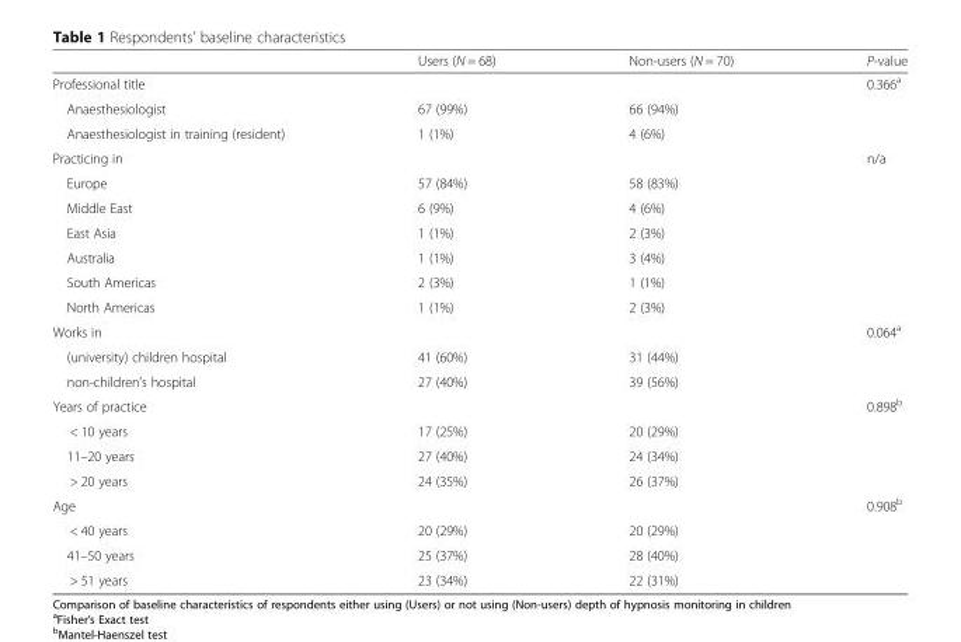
<table><thead><tr><td></td><td>Users (N = 68)</td><td>Non-users (N = 70)</td><td>P-value</td></tr></thead><tbody><tr><td>Professional title</td><td></td><td></td><td>0.366<sup>a</sup></td></tr><tr><td>Anaesthesiologist</td><td>67 (99%)</td><td>66 (94%)</td><td></td></tr><tr><td>Anaesthesiologist in training (resident)</td><td>1 (1%)</td><td>4 (6%)</td><td></td></tr><tr><td>Practicing in</td><td></td><td></td><td>n/a</td></tr><tr><td>Europe</td><td>57 (84%)</td><td>58 (83%)</td><td></td></tr><tr><td>Middle East</td><td>6 (9%)</td><td>4 (6%)</td><td></td></tr><tr><td>East Asia</td><td>1 (1%)</td><td>2 (3%)</td><td></td></tr><tr><td>Australia</td><td>1 (1%)</td><td>3 (4%)</td><td></td></tr><tr><td>South Americas</td><td>2 (3%)</td><td>1 (1%)</td><td></td></tr><tr><td>North Americas</td><td>1 (1%)</td><td>2 (3%)</td><td></td></tr><tr><td>Works in</td><td></td><td></td><td>0.064<sup>a</sup></td></tr><tr><td>(university) children hospital</td><td>41 (60%)</td><td>31 (44%)</td><td></td></tr><tr><td>non-children’s hospital</td><td>27 (40%)</td><td>39 (56%)</td><td></td></tr><tr><td>Years of practice</td><td></td><td></td><td>0.898<sup>b</sup></td></tr><tr><td>&lt; 10 years</td><td>17 (25%)</td><td>20 (29%)</td><td></td></tr><tr><td>11–20 years</td><td>27 (40%)</td><td>24 (34%)</td><td></td></tr><tr><td>&gt; 20 years</td><td>24 (35%)</td><td>26 (37%)</td><td></td></tr><tr><td>Age</td><td></td><td></td><td>0.908<sup>b</sup></td></tr><tr><td>&lt; 40 years</td><td>20 (29%)</td><td>20 (29%)</td><td></td></tr><tr><td>41–50 years</td><td>25 (37%)</td><td>28 (40%)</td><td></td></tr><tr><td>&gt; 51 years</td><td>23 (34%)</td><td>22 (31%)</td><td></td></tr></tbody></table>